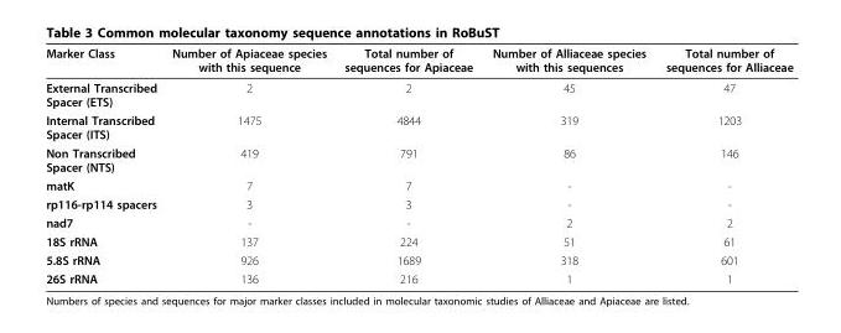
<table><thead><tr><td>Marker Class</td><td>Number of Apiaceae species with this sequence</td><td>Total number of sequences for Apiaceae</td><td>Number of Alliaceae species with this sequences</td><td>Total number of sequences for Alliaceae</td></tr></thead><tbody><tr><td>External Transcribed Spacer (ETS)</td><td>2</td><td>2</td><td>45</td><td>47</td></tr><tr><td>Internal Transcribed Spacer (ITS)</td><td>1475</td><td>4844</td><td>319</td><td>1203</td></tr><tr><td>Non Transcribed Spacer (NTS)</td><td>419</td><td>791</td><td>86</td><td>146</td></tr><tr><td>matK</td><td>7</td><td>7</td><td>-</td><td>-</td></tr><tr><td>rp116-rp114 spacers</td><td>3</td><td>3</td><td>-</td><td>-</td></tr><tr><td>nad7</td><td>-</td><td>-</td><td>2</td><td>2</td></tr><tr><td>18S rRNA</td><td>137</td><td>224</td><td>51</td><td>61</td></tr><tr><td>5.8S rRNA</td><td>926</td><td>1689</td><td>318</td><td>601</td></tr><tr><td>26S rRNA</td><td>136</td><td>216</td><td>1</td><td>1</td></tr></tbody></table>